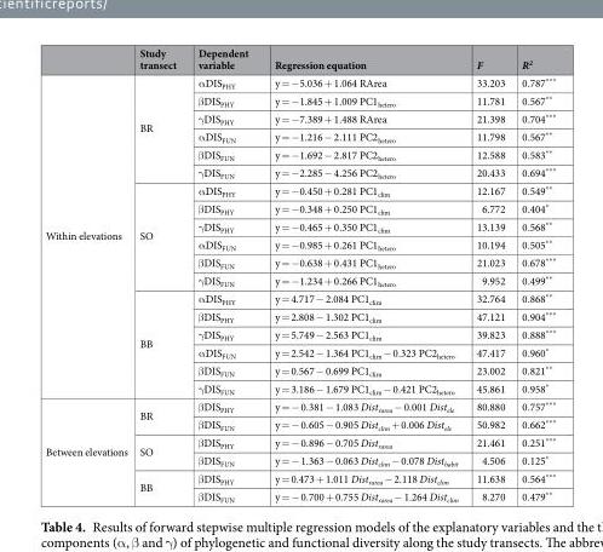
<table><thead><tr><td></td><td>Study transect</td><td>Dependent variable</td><td>Regression equation</td><td>F</td><td>R<sup>2</sup></td></tr></thead><tbody><tr><td rowspan="18">Within elevations</td><td rowspan="6">BR</td><td>αDIS<sub>PHY</sub></td><td>y = −5.036 + 1.064 RArea</td><td>33.203</td><td>0.787***</td></tr><tr><td>βDIS<sub>PHY</sub></td><td>y = −1.845 + 1.009 PC1<sub>hetero</sub></td><td>11.781</td><td>0.567**</td></tr><tr><td>γDIS<sub>PHY</sub></td><td>y = −7.389 + 1.488 RArea</td><td>21.398</td><td>0.704***</td></tr><tr><td>αDIS<sub>FUN</sub></td><td>y = −1.216 − 2.111 PC2<sub>hetero</sub></td><td>11.798</td><td>0.567**</td></tr><tr><td>βDIS<sub>FUN</sub></td><td>y = −1.692 − 2.817 PC2<sub>hetero</sub></td><td>12.588</td><td>0.583**</td></tr><tr><td>γDIS<sub>FUN</sub></td><td>y = −2.285 − 4.256 PC2<sub>hetero</sub></td><td>20.433</td><td>0.694***</td></tr><tr><td rowspan="6">SO</td><td>αDIS<sub>PHY</sub></td><td>y = −0.450 + 0.281 PC1<sub>clim</sub></td><td>12.167</td><td>0.549**</td></tr><tr><td>βDIS<sub>PHY</sub></td><td>y = −0.348 + 0.250 PC1<sub>clim</sub></td><td>6.772</td><td>0.404*</td></tr><tr><td>γDIS<sub>PHY</sub></td><td>y = −0.465 + 0.350 PC1<sub>clim</sub></td><td>13.139</td><td>0.568**</td></tr><tr><td>αDIS<sub>FUN</sub></td><td>y = −0.985 + 0.261 PC1<sub>hetero</sub></td><td>10.194</td><td>0.505**</td></tr><tr><td>βDIS<sub>FUN</sub></td><td>y = −0.638 + 0.431 PC1<sub>hetero</sub></td><td>21.023</td><td>0.678***</td></tr><tr><td>γDIS<sub>FUN</sub></td><td>y = −1.234 + 0.266 PC1<sub>hetero</sub></td><td>9.952</td><td>0.499**</td></tr><tr><td rowspan="6">BB</td><td>αDIS<sub>PHY</sub></td><td>y = 4.717 − 2.084 PC1<sub>clim</sub></td><td>32.764</td><td>0.868**</td></tr><tr><td>βDIS<sub>PHY</sub></td><td>y = 2.808 − 1.302 PC1<sub>clim</sub></td><td>47.121</td><td>0.904***</td></tr><tr><td>γDIS<sub>PHY</sub></td><td>y = 5.749 − 2.563 PC1<sub>clim</sub></td><td>39.823</td><td>0.888***</td></tr><tr><td>αDIS<sub>FUN</sub></td><td>y = 2.542 − 1.364 PC1<sub>clim</sub> − 0.323 PC2<sub>hetero</sub></td><td>47.417</td><td>0.960*</td></tr><tr><td>βDIS<sub>FUN</sub></td><td>y = 0.567 − 0.699 PC1<sub>clim</sub></td><td>23.002</td><td>0.821**</td></tr><tr><td>γDIS<sub>FUN</sub></td><td>y = 3.186 − 1.679 PC1<sub>clim</sub> − 0.421 PC2<sub>hetero</sub></td><td>45.861</td><td>0.958*</td></tr><tr><td rowspan="6">Between elevations</td><td rowspan="2">BR</td><td>βDIS<sub>PHY</sub></td><td>y = − 0.381 − 1.083 Dist<sub>rarea</sub> − 0.001 Dist<sub>ele</sub></td><td>80.880</td><td>0.757***</td></tr><tr><td>βDIS<sub>FUN</sub></td><td>y = − 0.605 − 0.905 Dist<sub>clim</sub> + 0.006 Dist<sub>ele</sub></td><td>50.982</td><td>0.662***</td></tr><tr><td rowspan="2">SO</td><td>βDIS<sub>PHY</sub></td><td>y = − 0.896 − 0.705 Dist<sub>rarea</sub></td><td>21.461</td><td>0.251***</td></tr><tr><td>βDIS<sub>FUN</sub></td><td>y = − 1.363 − 0.063 Dist<sub>clim</sub> − 0.078 Dist<sub>habit</sub></td><td>4.506</td><td>0.125*</td></tr><tr><td rowspan="2">BB</td><td>βDIS<sub>PHY</sub></td><td>y = 0.473 + 1.011 Dist<sub>rarea</sub> − 2.118 Dist<sub>clim</sub></td><td>11.638</td><td>0.564***</td></tr><tr><td>βDIS<sub>FUN</sub></td><td>y = − 0.700 + 0.755 Dist<sub>rarea</sub> − 1.264 Dist<sub>clim</sub></td><td>8.270</td><td>0.479**</td></tr></tbody></table>